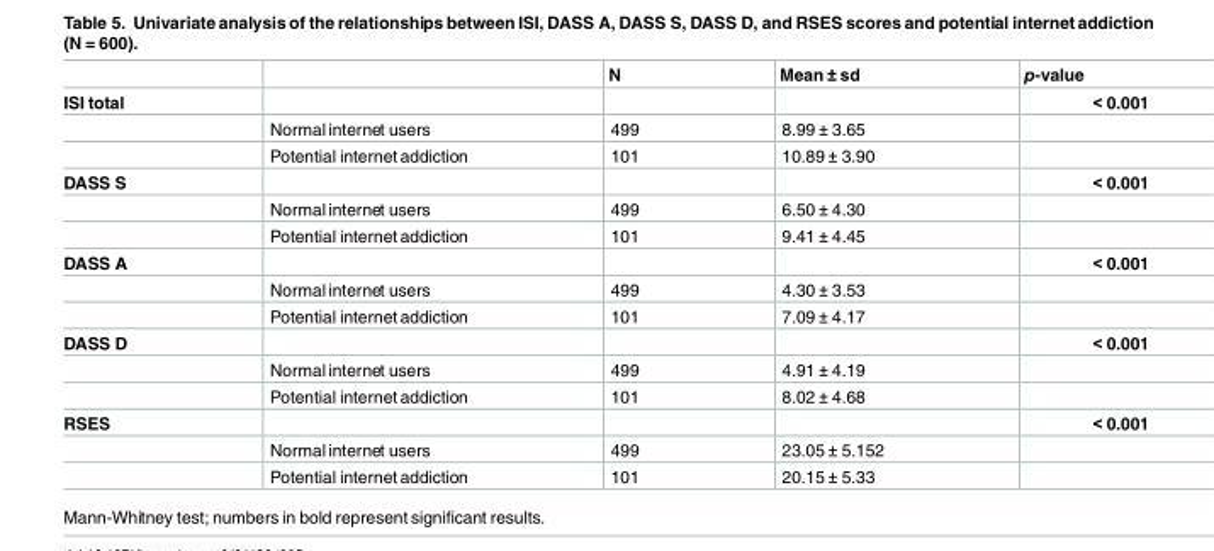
<table><thead><tr><td></td><td></td><td>N</td><td>Mean ± sd</td><td>p-value</td></tr></thead><tbody><tr><td rowspan="3">ISI total</td><td></td><td></td><td></td><td>&lt; 0.001</td></tr><tr><td>Normal internet users</td><td>499</td><td>8.99 ± 3.65</td><td></td></tr><tr><td>Potential internet addiction</td><td>101</td><td>10.89 ± 3.90</td><td></td></tr><tr><td rowspan="3">DASS S</td><td></td><td></td><td></td><td>&lt; 0.001</td></tr><tr><td>Normal internet users</td><td>499</td><td>6.50 ± 4.30</td><td></td></tr><tr><td>Potential internet addiction</td><td>101</td><td>9.41 ± 4.45</td><td></td></tr><tr><td rowspan="3">DASS A</td><td></td><td></td><td></td><td>&lt; 0.001</td></tr><tr><td>Normal internet users</td><td>499</td><td>4.30 ± 3.53</td><td></td></tr><tr><td>Potential internet addiction</td><td>101</td><td>7.09 ± 4.17</td><td></td></tr><tr><td rowspan="3">DASS D</td><td></td><td></td><td></td><td>&lt; 0.001</td></tr><tr><td>Normal internet users</td><td>499</td><td>4.91 ± 4.19</td><td></td></tr><tr><td>Potential internet addiction</td><td>101</td><td>8.02 ± 4.68</td><td></td></tr><tr><td rowspan="3">RSES</td><td></td><td></td><td></td><td>&lt; 0.001</td></tr><tr><td>Normal internet users</td><td>499</td><td>23.05 ± 5.152</td><td></td></tr><tr><td>Potential internet addiction</td><td>101</td><td>20.15 ± 5.33</td><td></td></tr></tbody></table>